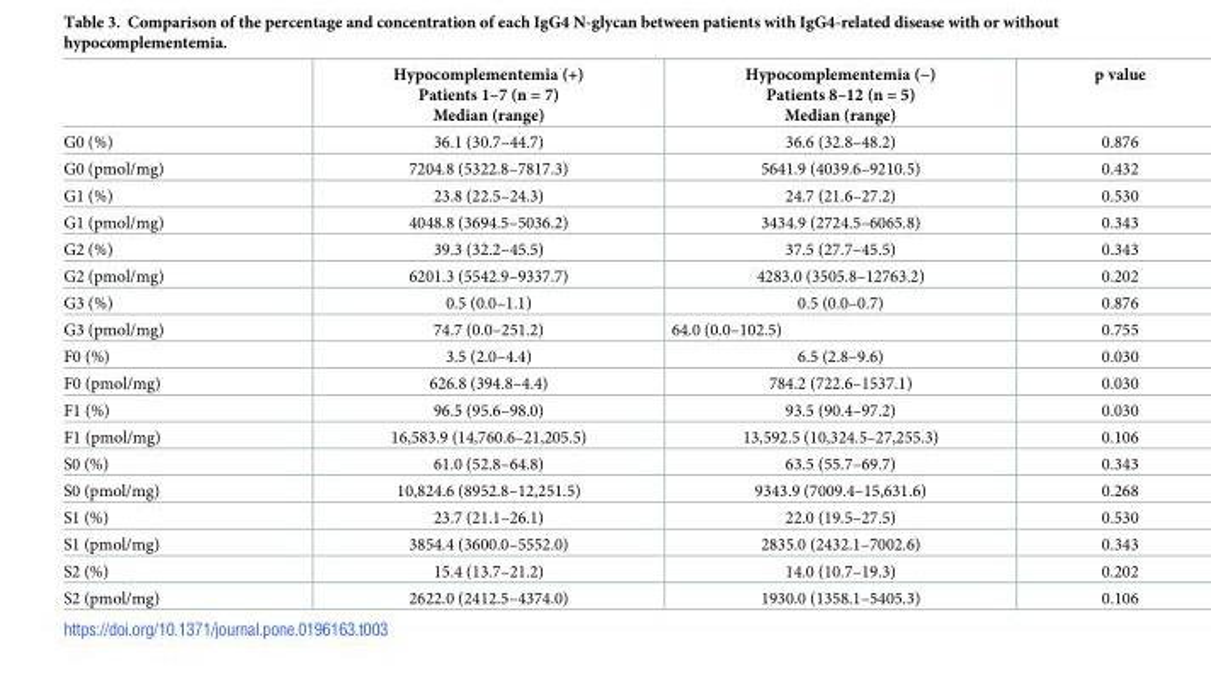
<table><thead><tr><td></td><td>Hypocomplementemia (+) Patients 1–7 (n = 7) Median (range)</td><td>Hypocomplementemia (−) Patients 8–12 (n = 5) Median (range)</td><td>p value</td></tr></thead><tbody><tr><td>G0 (%)</td><td>36.1 (30.7–44.7)</td><td>36.6 (32.8–48.2)</td><td>0.876</td></tr><tr><td>G0 (pmol/mg)</td><td>7204.8 (5322.8–7817.3)</td><td>5641.9 (4039.6–9210.5)</td><td>0.432</td></tr><tr><td>G1 (%)</td><td>23.8 (22.5–24.3)</td><td>24.7 (21.6–27.2)</td><td>0.530</td></tr><tr><td>G1 (pmol/mg)</td><td>4048.8 (3694.5–5036.2)</td><td>3434.9 (2724.5–6065.8)</td><td>0.343</td></tr><tr><td>G2 (%)</td><td>39.3 (32.2–45.5)</td><td>37.5 (27.7–45.5)</td><td>0.343</td></tr><tr><td>G2 (pmol/mg)</td><td>6201.3 (5542.9–9337.7)</td><td>4283.0 (3505.8–12763.2)</td><td>0.202</td></tr><tr><td>G3 (%)</td><td>0.5 (0.0–1.1)</td><td>0.5 (0.0–0.7)</td><td>0.876</td></tr><tr><td>G3 (pmol/mg)</td><td>74.7 (0.0–251.2)</td><td>64.0 (0.0–102.5)</td><td>0.755</td></tr><tr><td>F0 (%)</td><td>3.5 (2.0–4.4)</td><td>6.5 (2.8–9.6)</td><td>0.030</td></tr><tr><td>F0 (pmol/mg)</td><td>626.8 (394.8–4.4)</td><td>784.2 (722.6–1537.1)</td><td>0.030</td></tr><tr><td>F1 (%)</td><td>96.5 (95.6–98.0)</td><td>93.5 (90.4–97.2)</td><td>0.030</td></tr><tr><td>F1 (pmol/mg)</td><td>16,583.9 (14,760.6–21,205.5)</td><td>13,592.5 (10,324.5–27,255.3)</td><td>0.106</td></tr><tr><td>S0 (%)</td><td>61.0 (52.8–64.8)</td><td>63.5 (55.7–69.7)</td><td>0.343</td></tr><tr><td>S0 (pmol/mg)</td><td>10,824.6 (8952.8–12,251.5)</td><td>9343.9 (7009.4–15,631.6)</td><td>0.268</td></tr><tr><td>S1 (%)</td><td>23.7 (21.1–26.1)</td><td>22.0 (19.5–27.5)</td><td>0.530</td></tr><tr><td>S1 (pmol/mg)</td><td>3854.4 (3600.0–5552.0)</td><td>2835.0 (2432.1–7002.6)</td><td>0.343</td></tr><tr><td>S2 (%)</td><td>15.4 (13.7–21.2)</td><td>14.0 (10.7–19.3)</td><td>0.202</td></tr><tr><td>S2 (pmol/mg)</td><td>2622.0 (2412.5–4374.0)</td><td>1930.0 (1358.1–5405.3)</td><td>0.106</td></tr></tbody></table>